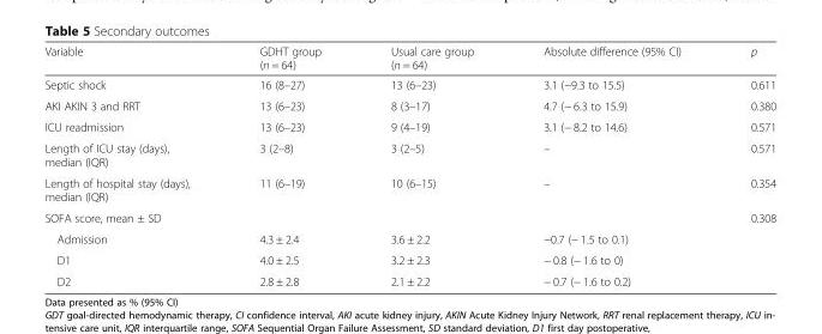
<table><thead><tr><td>Variable</td><td>GDHT group (n = 64)</td><td>Usual care group (n = 64)</td><td>Absolute difference (95% CI)</td><td>p</td></tr></thead><tbody><tr><td>Septic shock</td><td>16 (8–27)</td><td>13 (6–23)</td><td>3.1 (−9.3 to 15.5)</td><td>0.611</td></tr><tr><td>AKI AKIN 3 and RRT</td><td>13 (6–23)</td><td>8 (3–17)</td><td>4.7 (− 6.3 to 15.9)</td><td>0.380</td></tr><tr><td>ICU readmission</td><td>13 (6–23)</td><td>9 (4–19)</td><td>3.1 (− 8.2 to 14.6)</td><td>0.571</td></tr><tr><td>Length of ICU stay (days), median (IQR)</td><td>3 (2–8)</td><td>3 (2–5)</td><td>–</td><td>0.571</td></tr><tr><td>Length of hospital stay (days), median (IQR)</td><td>11 (6–19)</td><td>10 (6–15)</td><td>–</td><td>0.354</td></tr><tr><td>SOFA score, mean ± SD</td><td></td><td></td><td></td><td>0.308</td></tr><tr><td>Admission</td><td>4.3 ± 2.4</td><td>3.6 ± 2.2</td><td>−0.7 (− 1.5 to 0.1)</td><td></td></tr><tr><td>D1</td><td>4.0 ± 2.5</td><td>3.2 ± 2.3</td><td>− 0.8 (− 1.6 to 0)</td><td></td></tr><tr><td>D2</td><td>2.8 ± 2.8</td><td>2.1 ± 2.2</td><td>− 0.7 (− 1.6 to 0.2)</td><td></td></tr></tbody></table>